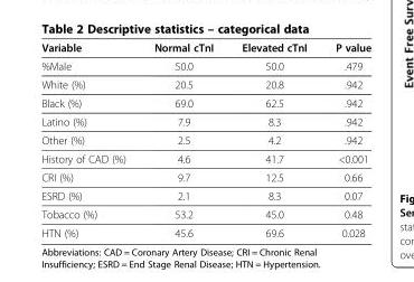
<table><thead><tr><td>Variable</td><td>Normal cTnI</td><td>Elevated cTnI</td><td>P value</td></tr></thead><tbody><tr><td>%Male</td><td>50.0</td><td>50.0</td><td>.479</td></tr><tr><td>White (%)</td><td>20.5</td><td>20.8</td><td>.942</td></tr><tr><td>Black (%)</td><td>69.0</td><td>62.5</td><td>.942</td></tr><tr><td>Latino (%)</td><td>7.9</td><td>8.3</td><td>.942</td></tr><tr><td>Other (%)</td><td>2.5</td><td>4.2</td><td>.942</td></tr><tr><td>History of CAD (%)</td><td>4.6</td><td>41.7</td><td>&lt;0.001</td></tr><tr><td>CRI (%)</td><td>9.7</td><td>12.5</td><td>0.66</td></tr><tr><td>ESRD (%)</td><td>2.1</td><td>8.3</td><td>0.07</td></tr><tr><td>Tobacco (%)</td><td>53.2</td><td>45.0</td><td>0.48</td></tr><tr><td>HTN (%)</td><td>45.6</td><td>69.6</td><td>0.028</td></tr></tbody></table>